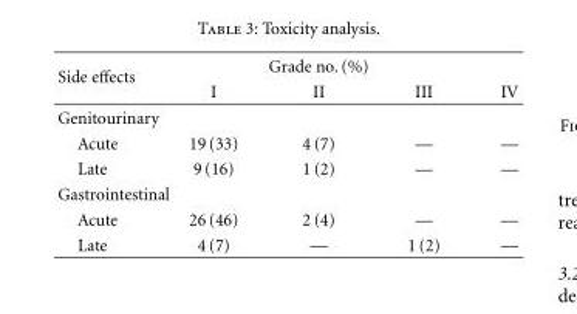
<table><thead><tr><td rowspan="2">Side effects</td><td rowspan="2">I</td><td rowspan="2">Grade no. (%) II</td><td rowspan="2">III</td><td rowspan="2">IV</td></tr><tr></tr></thead><tbody><tr><td colspan="5">Genitourinary</td></tr><tr><td>Acute</td><td>19 (33)</td><td>4 (7)</td><td>—</td><td>—</td></tr><tr><td>Late</td><td>9 (16)</td><td>1 (2)</td><td>—</td><td>—</td></tr><tr><td colspan="5">Gastrointestinal</td></tr><tr><td>Acute</td><td>26 (46)</td><td>2 (4)</td><td>—</td><td>—</td></tr><tr><td>Late</td><td>4 (7)</td><td>—</td><td>1 (2)</td><td>—</td></tr></tbody></table>